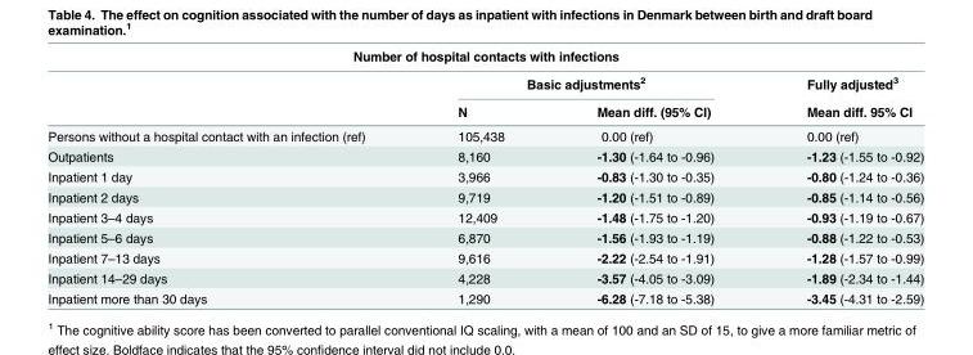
<table><thead><tr><td colspan="4">Number of hospital contacts with infections</td></tr><tr><td rowspan="2"></td><td colspan="2">Basic adjustments<sup>2</sup></td><td rowspan="2">Fully adjusted<sup>3</sup> Mean diff. 95% CI</td></tr><tr><td>N</td><td>Mean diff. (95% CI)</td></tr></thead><tbody><tr><td>Persons without a hospital contact with an infection (ref)</td><td>105,438</td><td>0.00 (ref)</td><td>0.00 (ref)</td></tr><tr><td>Outpatients</td><td>8,160</td><td>-1.30 (-1.64 to -0.96)</td><td>-1.23 (-1.55 to -0.92)</td></tr><tr><td>Inpatient 1 day</td><td>3,966</td><td>-0.83 (-1.30 to -0.35)</td><td>-0.80 (-1.24 to -0.36)</td></tr><tr><td>Inpatient 2 days</td><td>9,719</td><td>-1.20 (-1.51 to -0.89)</td><td>-0.85 (-1.14 to -0.56)</td></tr><tr><td>Inpatient 3–4 days</td><td>12,409</td><td>-1.48 (-1.75 to -1.20)</td><td>-0.93 (-1.19 to -0.67)</td></tr><tr><td>Inpatient 5–6 days</td><td>6,870</td><td>-1.56 (-1.93 to -1.19)</td><td>-0.88 (-1.22 to -0.53)</td></tr><tr><td>Inpatient 7–13 days</td><td>9,616</td><td>-2.22 (-2.54 to -1.91)</td><td>-1.28 (-1.57 to -0.99)</td></tr><tr><td>Inpatient 14–29 days</td><td>4,228</td><td>-3.57 (-4.05 to -3.09)</td><td>-1.89 (-2.34 to -1.44)</td></tr><tr><td>Inpatient more than 30 days</td><td>1,290</td><td>-6.28 (-7.18 to -5.38)</td><td>-3.45 (-4.31 to -2.59)</td></tr></tbody></table>